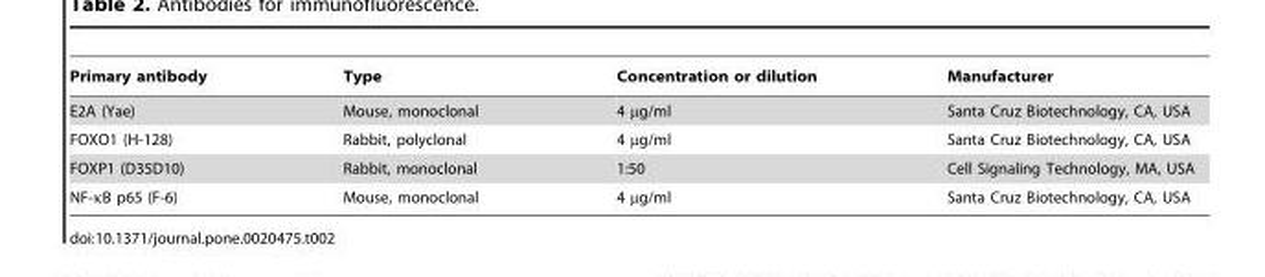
<table><thead><tr><td>Primary antibody</td><td>Type</td><td>Concentration or dilution</td><td>Manufacturer</td></tr></thead><tbody><tr><td>E2A (Yae)</td><td>Mouse, monoclonal</td><td>4 µg/ml</td><td>Santa Cruz Biotechnology, CA, USA</td></tr><tr><td>FOXO1 (H-128)</td><td>Rabbit, polyclonal</td><td>4 µg/ml</td><td>Santa Cruz Biotechnology, CA, USA</td></tr><tr><td>FOXP1 (D35D10)</td><td>Rabbit, monoclonal</td><td>1:50</td><td>Cell Signaling Technology, MA, USA</td></tr><tr><td>NF-κB p65 (F-6)</td><td>Mouse, monoclonal</td><td>4 µg/ml</td><td>Santa Cruz Biotechnology, CA, USA</td></tr></tbody></table>